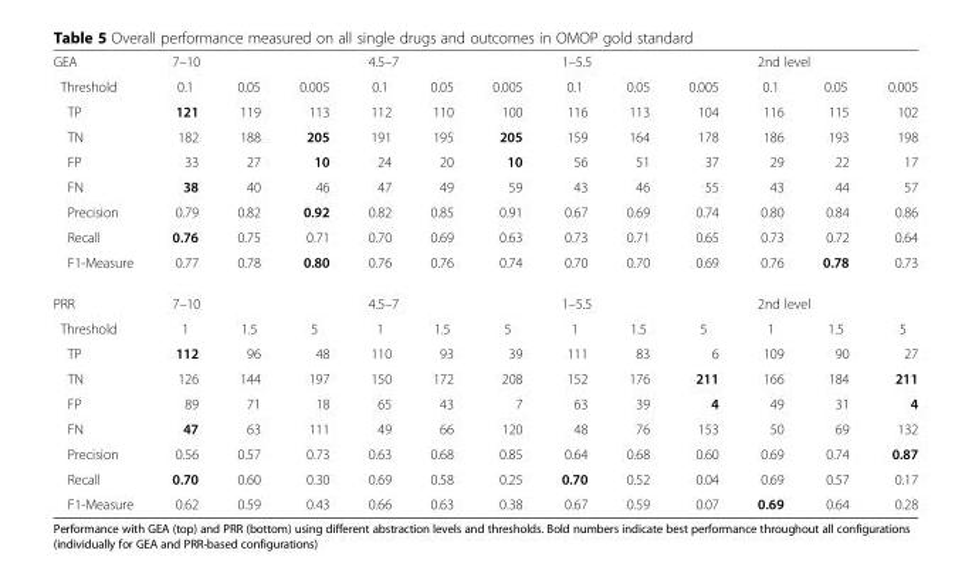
<table><tbody><tr><td>GEA</td><td colspan="3">7–10</td><td colspan="3">4.5–7</td><td colspan="3">1–5.5</td><td colspan="3">2nd level</td></tr><tr><td>Threshold</td><td>0.1</td><td>0.05</td><td>0.005</td><td>0.1</td><td>0.05</td><td>0.005</td><td>0.1</td><td>0.05</td><td>0.005</td><td>0.1</td><td>0.05</td><td>0.005</td></tr><tr><td>TP</td><td>121</td><td>119</td><td>113</td><td>112</td><td>110</td><td>100</td><td>116</td><td>113</td><td>104</td><td>116</td><td>115</td><td>102</td></tr><tr><td>TN</td><td>182</td><td>188</td><td>205</td><td>191</td><td>195</td><td>205</td><td>159</td><td>164</td><td>178</td><td>186</td><td>193</td><td>198</td></tr><tr><td>FP</td><td>33</td><td>27</td><td>10</td><td>24</td><td>20</td><td>10</td><td>56</td><td>51</td><td>37</td><td>29</td><td>22</td><td>17</td></tr><tr><td>FN</td><td>38</td><td>40</td><td>46</td><td>47</td><td>49</td><td>59</td><td>43</td><td>46</td><td>55</td><td>43</td><td>44</td><td>57</td></tr><tr><td>Precision</td><td>0.79</td><td>0.82</td><td>0.92</td><td>0.82</td><td>0.85</td><td>0.91</td><td>0.67</td><td>0.69</td><td>0.74</td><td>0.80</td><td>0.84</td><td>0.86</td></tr><tr><td>Recall</td><td>0.76</td><td>0.75</td><td>0.71</td><td>0.70</td><td>0.69</td><td>0.63</td><td>0.73</td><td>0.71</td><td>0.65</td><td>0.73</td><td>0.72</td><td>0.64</td></tr><tr><td>F1-Measure</td><td>0.77</td><td>0.78</td><td>0.80</td><td>0.76</td><td>0.76</td><td>0.74</td><td>0.70</td><td>0.70</td><td>0.69</td><td>0.76</td><td>0.78</td><td>0.73</td></tr><tr><td>PRR</td><td colspan="3">7–10</td><td colspan="3">4.5–7</td><td colspan="3">1–5.5</td><td colspan="3">2nd level</td></tr><tr><td>Threshold</td><td>1</td><td>1.5</td><td>5</td><td>1</td><td>1.5</td><td>5</td><td>1</td><td>1.5</td><td>5</td><td>1</td><td>1.5</td><td>5</td></tr><tr><td>TP</td><td>112</td><td>96</td><td>48</td><td>110</td><td>93</td><td>39</td><td>111</td><td>83</td><td>6</td><td>109</td><td>90</td><td>27</td></tr><tr><td>TN</td><td>126</td><td>144</td><td>197</td><td>150</td><td>172</td><td>208</td><td>152</td><td>176</td><td>211</td><td>166</td><td>184</td><td>211</td></tr><tr><td>FP</td><td>89</td><td>71</td><td>18</td><td>65</td><td>43</td><td>7</td><td>63</td><td>39</td><td>4</td><td>49</td><td>31</td><td>4</td></tr><tr><td>FN</td><td>47</td><td>63</td><td>111</td><td>49</td><td>66</td><td>120</td><td>48</td><td>76</td><td>153</td><td>50</td><td>69</td><td>132</td></tr><tr><td>Precision</td><td>0.56</td><td>0.57</td><td>0.73</td><td>0.63</td><td>0.68</td><td>0.85</td><td>0.64</td><td>0.68</td><td>0.60</td><td>0.69</td><td>0.74</td><td>0.87</td></tr><tr><td>Recall</td><td>0.70</td><td>0.60</td><td>0.30</td><td>0.69</td><td>0.58</td><td>0.25</td><td>0.70</td><td>0.52</td><td>0.04</td><td>0.69</td><td>0.57</td><td>0.17</td></tr><tr><td>F1-Measure</td><td>0.62</td><td>0.59</td><td>0.43</td><td>0.66</td><td>0.63</td><td>0.38</td><td>0.67</td><td>0.59</td><td>0.07</td><td>0.69</td><td>0.64</td><td>0.28</td></tr></tbody></table>